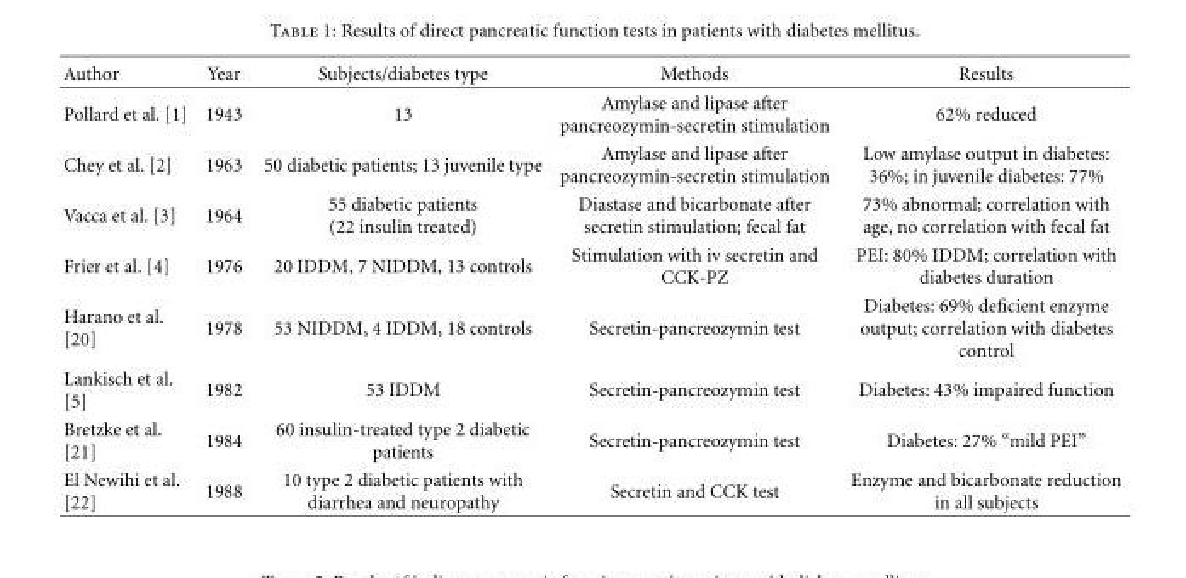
<table><thead><tr><td>Author</td><td>Year</td><td>Subjects/diabetes type</td><td>Methods</td><td>Results</td></tr></thead><tbody><tr><td>Pollard et al. [1]</td><td>1943</td><td>13</td><td>Amylase and lipase after pancreozymin-secretin stimulation</td><td>62% reduced</td></tr><tr><td>Chey et al. [2]</td><td>1963</td><td>50 diabetic patients; 13 juvenile type</td><td>Amylase and lipase after pancreozymin-secretin stimulation</td><td>Low amylase output in diabetes: 36%; in juvenile diabetes: 77%</td></tr><tr><td>Vacca et al. [3]</td><td>1964</td><td>55 diabetic patients (22 insulin treated)</td><td>Diastase and bicarbonate after secretin stimulation; fecal fat</td><td>73% abnormal; correlation with age, no correlation with fecal fat</td></tr><tr><td>Frier et al. [4]</td><td>1976</td><td>20 IDDM, 7 NIDDM, 13 controls</td><td>Stimulation with iv secretin and CCK-PZ</td><td>PEI: 80% IDDM; correlation with diabetes duration</td></tr><tr><td>Harano et al. [20]</td><td>1978</td><td>53 NIDDM, 4 IDDM, 18 controls</td><td>Secretin-pancreozymin test</td><td>Diabetes: 69% deficient enzyme output; correlation with diabetes control</td></tr><tr><td>Lankisch et al. [5]</td><td>1982</td><td>53 IDDM</td><td>Secretin-pancreozymin test</td><td>Diabetes: 43% impaired function</td></tr><tr><td>Bretzke et al. [21]</td><td>1984</td><td>60 insulin-treated type 2 diabetic patients</td><td>Secretin-pancreozymin test</td><td>Diabetes: 27% “mild PEI”</td></tr><tr><td>El Newihi et al. [22]</td><td>1988</td><td>10 type 2 diabetic patients with diarrhea and neuropathy</td><td>Secretin and CCK test</td><td>Enzyme and bicarbonate reduction in all subjects</td></tr></tbody></table>